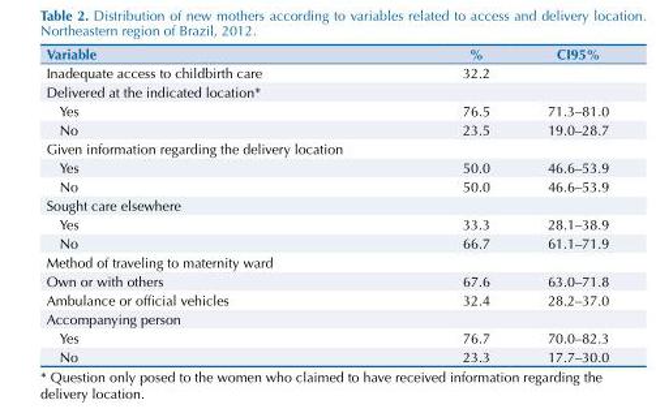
<table><thead><tr><td>Variable</td><td>%</td><td>CI95%</td></tr></thead><tbody><tr><td>Inadequate access to childbirth care</td><td>32.2</td><td></td></tr><tr><td colspan="3">Delivered at the indicated location*</td></tr><tr><td>Yes</td><td>76.5</td><td>71.3–81.0</td></tr><tr><td>No</td><td>23.5</td><td>19.0–28.7</td></tr><tr><td colspan="3">Given information regarding the delivery location</td></tr><tr><td>Yes</td><td>50.0</td><td>46.6–53.9</td></tr><tr><td>No</td><td>50.0</td><td>46.6–53.9</td></tr><tr><td colspan="3">Sought care elsewhere</td></tr><tr><td>Yes</td><td>33.3</td><td>28.1–38.9</td></tr><tr><td>No</td><td>66.7</td><td>61.1–71.9</td></tr><tr><td colspan="3">Method of traveling to maternity ward</td></tr><tr><td>Own or with others</td><td>67.6</td><td>63.0–71.8</td></tr><tr><td>Ambulance or official vehicles</td><td>32.4</td><td>28.2–37.0</td></tr><tr><td colspan="3">Accompanying person</td></tr><tr><td>Yes</td><td>76.7</td><td>70.0–82.3</td></tr><tr><td>No</td><td>23.3</td><td>17.7–30.0</td></tr></tbody></table>